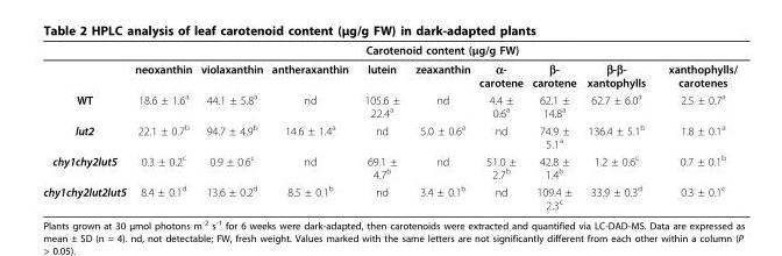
<table><thead><tr><td rowspan="2"></td><td colspan="9">Carotenoid content (μg/g FW)</td></tr><tr><td>neoxanthin</td><td>violaxanthin</td><td>antheraxanthin</td><td>lutein</td><td>zeaxanthin</td><td>α- carotene</td><td>β- carotene</td><td>β-β- xantophylls</td><td>xanthophylls/ carotenes</td></tr></thead><tbody><tr><td>WT</td><td>18.6 ± 1.6<sup>a</sup></td><td>44.1 ± 5.8<sup>a</sup></td><td>nd</td><td>105.6 ± 22.4<sup>a</sup></td><td>nd</td><td>4.4 ± 0.6<sup>a</sup></td><td>62.1 ± 14.8<sup>a</sup></td><td>62.7 ± 6.0<sup>a</sup></td><td>2.5 ± 0.7<sup>a</sup></td></tr><tr><td>lut2</td><td>22.1 ± 0.7<sup>b</sup></td><td>94.7 ± 4.9<sup>b</sup></td><td>14.6 ± 1.4<sup>a</sup></td><td>nd</td><td>5.0 ± 0.6<sup>a</sup></td><td>nd</td><td>74.9 ± 5.1<sup>a</sup></td><td>136.4 ± 5.1<sup>b</sup></td><td>1.8 ± 0.1<sup>a</sup></td></tr><tr><td>chy1chy2lut5</td><td>0.3 ± 0.2<sup>c</sup></td><td>0.9 ± 0.6<sup>c</sup></td><td>nd</td><td>69.1 ± 4.7<sup>b</sup></td><td>nd</td><td>51.0 ± 2.7<sup>b</sup></td><td>42.8 ± 1.4<sup>b</sup></td><td>1.2 ± 0.6<sup>c</sup></td><td>0.7 ± 0.1<sup>b</sup></td></tr><tr><td>chy1chy2lut2lut5</td><td>8.4 ± 0.1<sup>d</sup></td><td>13.6 ± 0.2<sup>d</sup></td><td>8.5 ± 0.1<sup>b</sup></td><td>nd</td><td>3.4 ± 0.1<sup>b</sup></td><td>nd</td><td>109.4 ± 2.3<sup>c</sup></td><td>33.9 ± 0.3<sup>d</sup></td><td>0.3 ± 0.1<sup>c</sup></td></tr></tbody></table>